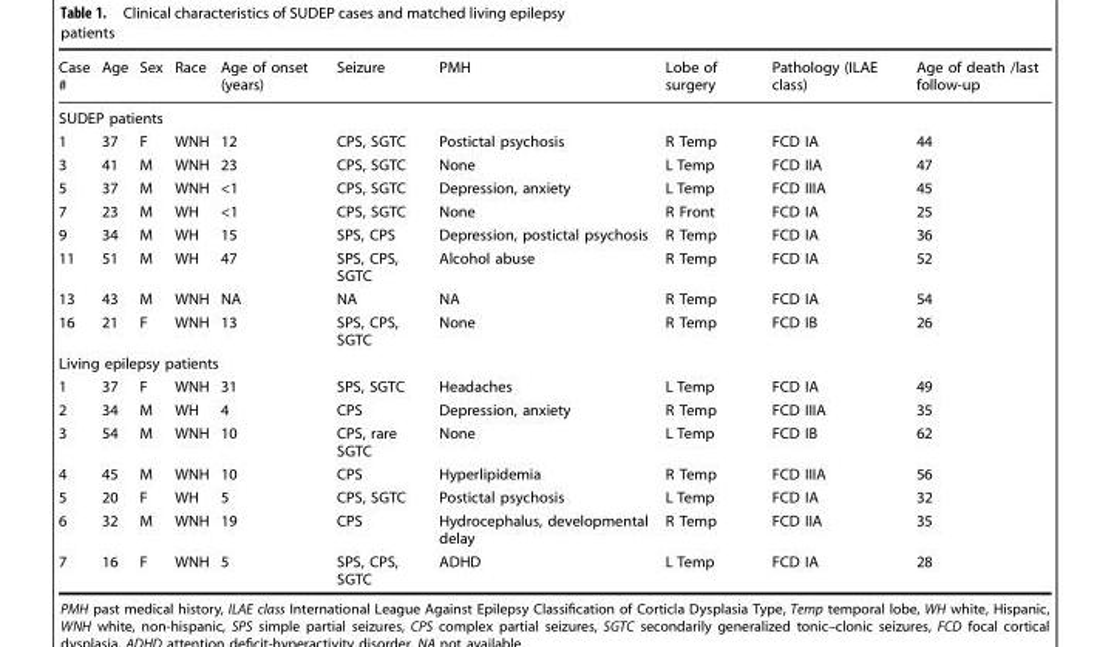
<table><thead><tr><td>Case #</td><td>Age</td><td>Sex</td><td>Race</td><td>Age of onset (years)</td><td>Seizure</td><td>PMH</td><td>Lobe of surgery</td><td>Pathology (ILAE class)</td><td>Age of death /last follow-up</td></tr></thead><tbody><tr><td colspan="10">SUDEP patients</td></tr><tr><td>1</td><td>37</td><td>F</td><td>WNH</td><td>12</td><td>CPS, SGTC</td><td>Postictal psychosis</td><td>R Temp</td><td>FCD IA</td><td>44</td></tr><tr><td>3</td><td>41</td><td>M</td><td>WNH</td><td>23</td><td>CPS, SGTC</td><td>None</td><td>L Temp</td><td>FCD IIA</td><td>47</td></tr><tr><td>5</td><td>37</td><td>M</td><td>WNH</td><td>&lt;1</td><td>CPS, SGTC</td><td>Depression, anxiety</td><td>L Temp</td><td>FCD IIIA</td><td>45</td></tr><tr><td>7</td><td>23</td><td>M</td><td>WH</td><td>&lt;1</td><td>CPS, SGTC</td><td>None</td><td>R Front</td><td>FCD IA</td><td>25</td></tr><tr><td>9</td><td>34</td><td>M</td><td>WH</td><td>15</td><td>SPS, CPS</td><td>Depression, postictal psychosis</td><td>R Temp</td><td>FCD IA</td><td>36</td></tr><tr><td>11</td><td>51</td><td>M</td><td>WH</td><td>47</td><td>SPS, CPS, SGTC</td><td>Alcohol abuse</td><td>R Temp</td><td>FCD IA</td><td>52</td></tr><tr><td>13</td><td>43</td><td>M</td><td>WNH</td><td>NA</td><td>NA</td><td>NA</td><td>R Temp</td><td>FCD IA</td><td>54</td></tr><tr><td>16</td><td>21</td><td>F</td><td>WNH</td><td>13</td><td>SPS, CPS, SGTC</td><td>None</td><td>R Temp</td><td>FCD IB</td><td>26</td></tr><tr><td colspan="10">Living epilepsy patients</td></tr><tr><td>1</td><td>37</td><td>F</td><td>WNH</td><td>31</td><td>SPS, SGTC</td><td>Headaches</td><td>L Temp</td><td>FCD IA</td><td>49</td></tr><tr><td>2</td><td>34</td><td>M</td><td>WH</td><td>4</td><td>CPS</td><td>Depression, anxiety</td><td>R Temp</td><td>FCD IIIA</td><td>35</td></tr><tr><td>3</td><td>54</td><td>M</td><td>WNH</td><td>10</td><td>CPS, rare SGTC</td><td>None</td><td>L Temp</td><td>FCD IB</td><td>62</td></tr><tr><td>4</td><td>45</td><td>M</td><td>WNH</td><td>10</td><td>CPS</td><td>Hyperlipidemia</td><td>R Temp</td><td>FCD IIIA</td><td>56</td></tr><tr><td>5</td><td>20</td><td>F</td><td>WH</td><td>5</td><td>CPS, SGTC</td><td>Postictal psychosis</td><td>L Temp</td><td>FCD IA</td><td>32</td></tr><tr><td>6</td><td>32</td><td>M</td><td>WNH</td><td>19</td><td>CPS</td><td>Hydrocephalus, developmental delay</td><td>R Temp</td><td>FCD IIA</td><td>35</td></tr><tr><td>7</td><td>16</td><td>F</td><td>WNH</td><td>5</td><td>SPS, CPS, SGTC</td><td>ADHD</td><td>L Temp</td><td>FCD IA</td><td>28</td></tr></tbody></table>